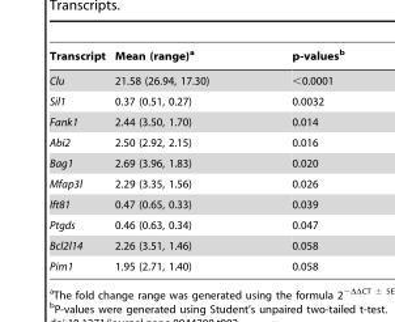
<table><thead><tr><td>Transcript</td><td>Mean (range)<sup>a</sup></td><td>p-values<sup>b</sup></td></tr></thead><tbody><tr><td>Clu</td><td>21.58 (26.94, 17.30)</td><td>&lt;0.0001</td></tr><tr><td>Sil1</td><td>0.37 (0.51, 0.27)</td><td>0.0032</td></tr><tr><td>Fank1</td><td>2.44 (3.50, 1.70)</td><td>0.014</td></tr><tr><td>Abi2</td><td>2.50 (2.92, 2.15)</td><td>0.016</td></tr><tr><td>Bag1</td><td>2.69 (3.96, 1.83)</td><td>0.020</td></tr><tr><td>Mfap3l</td><td>2.29 (3.35, 1.56)</td><td>0.026</td></tr><tr><td>Ift81</td><td>0.47 (0.65, 0.33)</td><td>0.039</td></tr><tr><td>Ptgds</td><td>0.46 (0.63, 0.34)</td><td>0.047</td></tr><tr><td>Bcl2l14</td><td>2.26 (3.51, 1.46)</td><td>0.058</td></tr><tr><td>Pim1</td><td>1.95 (2.71, 1.40)</td><td>0.058</td></tr></tbody></table>